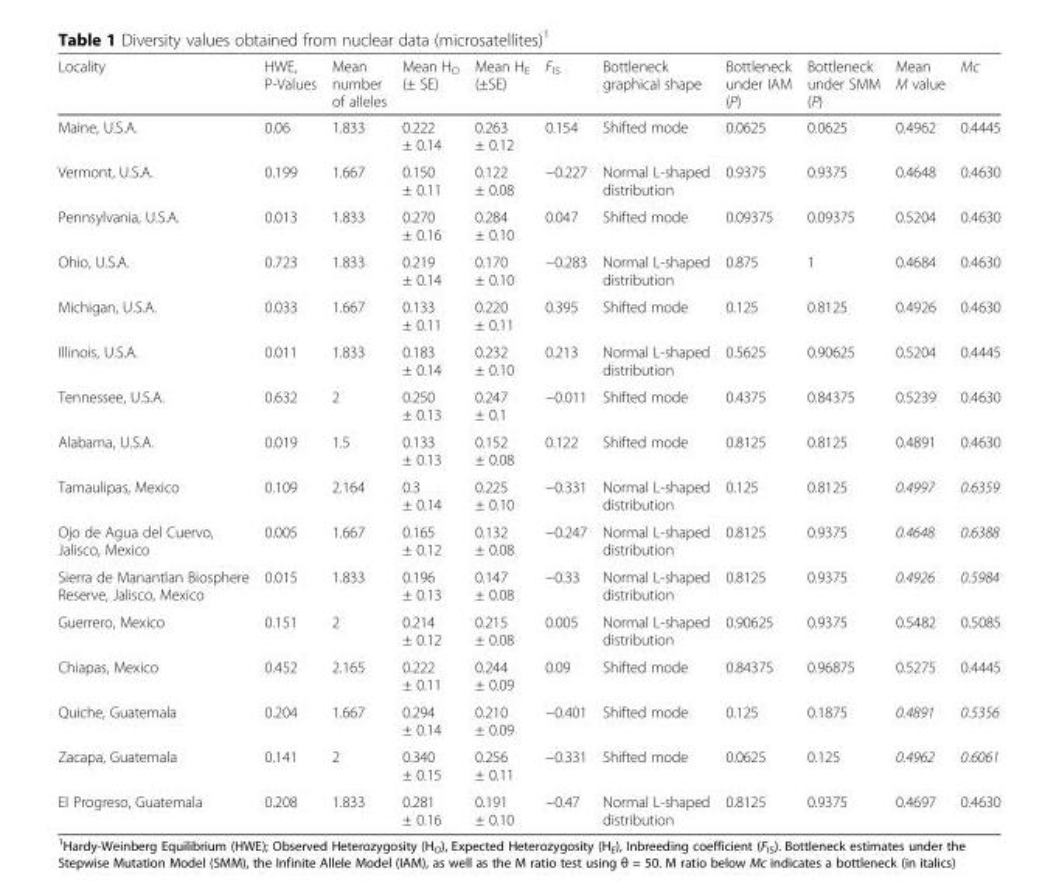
<table><thead><tr><td>Locality</td><td>HWE, P-Values</td><td>Mean number of alleles</td><td>Mean H<sub>O</sub> (± SE)</td><td>Mean H<sub>E</sub> (±SE)</td><td>F<sub>IS</sub></td><td>Bottleneck graphical shape</td><td>Bottleneck under IAM (P)</td><td>Bottleneck under SMM (P)</td><td>Mean M value</td><td>Mc</td></tr></thead><tbody><tr><td>Maine, U.S.A.</td><td>0.06</td><td>1.833</td><td>0.222 ± 0.14</td><td>0.263 ± 0.12</td><td>0.154</td><td>Shifted mode</td><td>0.0625</td><td>0.0625</td><td>0.4962</td><td>0.4445</td></tr><tr><td>Vermont, U.S.A.</td><td>0.199</td><td>1.667</td><td>0.150 ± 0.11</td><td>0.122 ± 0.08</td><td>−0.227</td><td>Normal L-shaped distribution</td><td>0.9375</td><td>0.9375</td><td>0.4648</td><td>0.4630</td></tr><tr><td>Pennsylvania, U.S.A.</td><td>0.013</td><td>1.833</td><td>0.270 ± 0.16</td><td>0.284 ± 0.10</td><td>0.047</td><td>Shifted mode</td><td>0.09375</td><td>0.09375</td><td>0.5204</td><td>0.4630</td></tr><tr><td>Ohio, U.S.A.</td><td>0.723</td><td>1.833</td><td>0.219 ± 0.14</td><td>0.170 ± 0.10</td><td>−0.283</td><td>Normal L-shaped distribution</td><td>0.875</td><td>1</td><td>0.4684</td><td>0.4630</td></tr><tr><td>Michigan, U.S.A.</td><td>0.033</td><td>1.667</td><td>0.133 ± 0.11</td><td>0.220 ± 0.11</td><td>0.395</td><td>Shifted mode</td><td>0.125</td><td>0.8125</td><td>0.4926</td><td>0.4630</td></tr><tr><td>Illinois, U.S.A.</td><td>0.011</td><td>1.833</td><td>0.183 ± 0.14</td><td>0.232 ± 0.10</td><td>0.213</td><td>Normal L-shaped distribution</td><td>0.5625</td><td>0.90625</td><td>0.5204</td><td>0.4445</td></tr><tr><td>Tennessee, U.S.A.</td><td>0.632</td><td>2</td><td>0.250 ± 0.13</td><td>0.247 ± 0.1</td><td>−0.011</td><td>Shifted mode</td><td>0.4375</td><td>0.84375</td><td>0.5239</td><td>0.4630</td></tr><tr><td>Alabama, U.S.A.</td><td>0.019</td><td>1.5</td><td>0.133 ± 0.13</td><td>0.152 ± 0.08</td><td>0.122</td><td>Shifted mode</td><td>0.8125</td><td>0.8125</td><td>0.4891</td><td>0.4630</td></tr><tr><td>Tamaulipas, Mexico</td><td>0.109</td><td>2.164</td><td>0.3 ± 0.14</td><td>0.225 ± 0.10</td><td>−0.331</td><td>Normal L-shaped distribution</td><td>0.125</td><td>0.8125</td><td>0.4997</td><td>0.6359</td></tr><tr><td>Ojo de Agua del Cuervo, Jalisco, Mexico</td><td>0.005</td><td>1.667</td><td>0.165 ± 0.12</td><td>0.132 ± 0.08</td><td>−0.247</td><td>Normal L-shaped distribution</td><td>0.8125</td><td>0.9375</td><td>0.4648</td><td>0.6388</td></tr><tr><td>Sierra de Manantlan Biosphere Reserve, Jalisco, Mexico</td><td>0.015</td><td>1.833</td><td>0.196 ± 0.13</td><td>0.147 ± 0.08</td><td>−0.33</td><td>Normal L-shaped distribution</td><td>0.8125</td><td>0.9375</td><td>0.4926</td><td>0.5984</td></tr><tr><td>Guerrero, Mexico</td><td>0.151</td><td>2</td><td>0.214 ± 0.12</td><td>0.215 ± 0.08</td><td>0.005</td><td>Normal L-shaped distribution</td><td>0.90625</td><td>0.9375</td><td>0.5482</td><td>0.5085</td></tr><tr><td>Chiapas, Mexico</td><td>0.452</td><td>2.165</td><td>0.222 ± 0.11</td><td>0.244 ± 0.09</td><td>0.09</td><td>Shifted mode</td><td>0.84375</td><td>0.96875</td><td>0.5275</td><td>0.4445</td></tr><tr><td>Quiche, Guatemala</td><td>0.204</td><td>1.667</td><td>0.294 ± 0.14</td><td>0.210 ± 0.09</td><td>−0.401</td><td>Shifted mode</td><td>0.125</td><td>0.1875</td><td>0.4891</td><td>0.5356</td></tr><tr><td>Zacapa, Guatemala</td><td>0.141</td><td>2</td><td>0.340 ± 0.15</td><td>0.256 ± 0.11</td><td>−0.331</td><td>Shifted mode</td><td>0.0625</td><td>0.125</td><td>0.4962</td><td>0.6061</td></tr><tr><td>El Progreso, Guatemala</td><td>0.208</td><td>1.833</td><td>0.281 ± 0.16</td><td>0.191 ± 0.10</td><td>−0.47</td><td>Normal L-shaped distribution</td><td>0.8125</td><td>0.9375</td><td>0.4697</td><td>0.4630</td></tr></tbody></table>